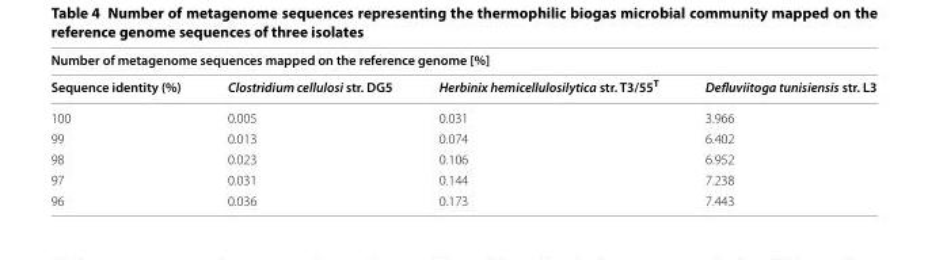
<table><thead><tr><td colspan="4">Number of metagenome sequences mapped on the reference genome [%]</td></tr><tr><td>Sequence identity (%)</td><td>Clostridium cellulosi str. DG5</td><td>Herbinix hemicellulosilytica str. T3/55<sup>T</sup></td><td>Defluviitoga tunisiensis str. L3</td></tr></thead><tbody><tr><td>100</td><td>0.005</td><td>0.031</td><td>3.966</td></tr><tr><td>99</td><td>0.013</td><td>0.074</td><td>6.402</td></tr><tr><td>98</td><td>0.023</td><td>0.106</td><td>6.952</td></tr><tr><td>97</td><td>0.031</td><td>0.144</td><td>7.238</td></tr><tr><td>96</td><td>0.036</td><td>0.173</td><td>7.443</td></tr></tbody></table>